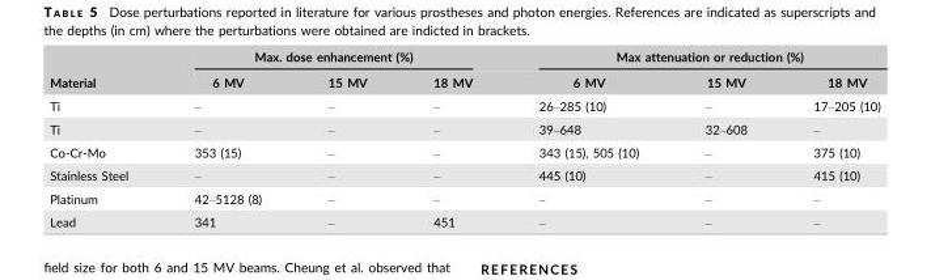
<table><thead><tr><td rowspan="2">Material</td><td colspan="3">Max. dose enhancement (%)</td><td colspan="3">Max attenuation or reduction (%)</td></tr><tr><td>6 MV</td><td>15 MV</td><td>18 MV</td><td>6 MV</td><td>15 MV</td><td>18 MV</td></tr></thead><tbody><tr><td>Ti</td><td>–</td><td>–</td><td>–</td><td>26–285 (10)</td><td>–</td><td>17–205 (10)</td></tr><tr><td>Ti</td><td>–</td><td>–</td><td>–</td><td>39–648</td><td>32–608</td><td>–</td></tr><tr><td>Co-Cr-Mo</td><td>353 (15)</td><td>–</td><td>–</td><td>343 (15), 505 (10)</td><td>–</td><td>375 (10)</td></tr><tr><td>Stainless Steel</td><td>–</td><td>–</td><td>–</td><td>445 (10)</td><td>–</td><td>415 (10)</td></tr><tr><td>Platinum</td><td>42–5128 (8)</td><td>–</td><td>–</td><td>–</td><td>–</td><td>–</td></tr><tr><td>Lead</td><td>341</td><td>–</td><td>451</td><td>–</td><td>–</td><td>–</td></tr></tbody></table>